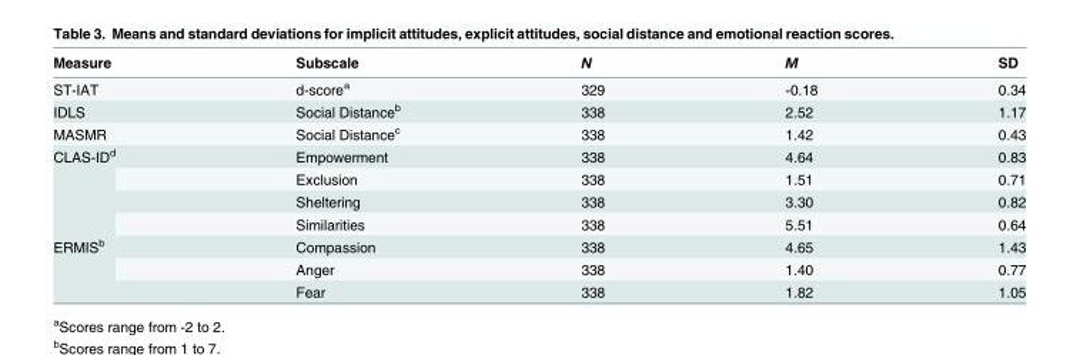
<table><thead><tr><td>Measure</td><td>Subscale</td><td>N</td><td>M</td><td>SD</td></tr></thead><tbody><tr><td>ST-IAT</td><td>d-score<sup>a</sup></td><td>329</td><td>-0.18</td><td>0.34</td></tr><tr><td>IDLS</td><td>Social Distance<sup>b</sup></td><td>338</td><td>2.52</td><td>1.17</td></tr><tr><td>MASMR</td><td>Social Distance<sup>c</sup></td><td>338</td><td>1.42</td><td>0.43</td></tr><tr><td rowspan="4">CLAS-ID<sup>d</sup></td><td>Empowerment</td><td>338</td><td>4.64</td><td>0.83</td></tr><tr><td>Exclusion</td><td>338</td><td>1.51</td><td>0.71</td></tr><tr><td>Sheltering</td><td>338</td><td>3.30</td><td>0.82</td></tr><tr><td>Similarities</td><td>338</td><td>5.51</td><td>0.64</td></tr><tr><td rowspan="3">ERMIS<sup>b</sup></td><td>Compassion</td><td>338</td><td>4.65</td><td>1.43</td></tr><tr><td>Anger</td><td>338</td><td>1.40</td><td>0.77</td></tr><tr><td>Fear</td><td>338</td><td>1.82</td><td>1.05</td></tr></tbody></table>